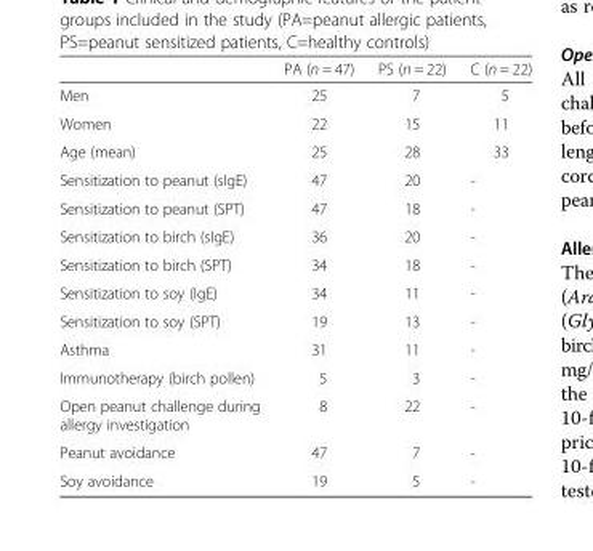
<table><thead><tr><td></td><td>PA (n = 47)</td><td>PS (n = 22)</td><td>C (n = 22)</td></tr></thead><tbody><tr><td>Men</td><td>25</td><td>7</td><td>5</td></tr><tr><td>Women</td><td>22</td><td>15</td><td>11</td></tr><tr><td>Age (mean)</td><td>25</td><td>28</td><td>33</td></tr><tr><td>Sensitization to peanut (sIgE)</td><td>47</td><td>20</td><td>-</td></tr><tr><td>Sensitization to peanut (SPT)</td><td>47</td><td>18</td><td>-</td></tr><tr><td>Sensitization to birch (sIgE)</td><td>36</td><td>20</td><td>-</td></tr><tr><td>Sensitization to birch (SPT)</td><td>34</td><td>18</td><td>-</td></tr><tr><td>Sensitization to soy (IgE)</td><td>34</td><td>11</td><td>-</td></tr><tr><td>Sensitization to soy (SPT)</td><td>19</td><td>13</td><td>-</td></tr><tr><td>Asthma</td><td>31</td><td>11</td><td>-</td></tr><tr><td>Immunotherapy (birch pollen)</td><td>5</td><td>3</td><td>-</td></tr><tr><td>Open peanut challenge during allergy investigation</td><td>8</td><td>22</td><td>-</td></tr><tr><td>Peanut avoidance</td><td>47</td><td>7</td><td>-</td></tr><tr><td>Soy avoidance</td><td>19</td><td>5</td><td>-</td></tr></tbody></table>